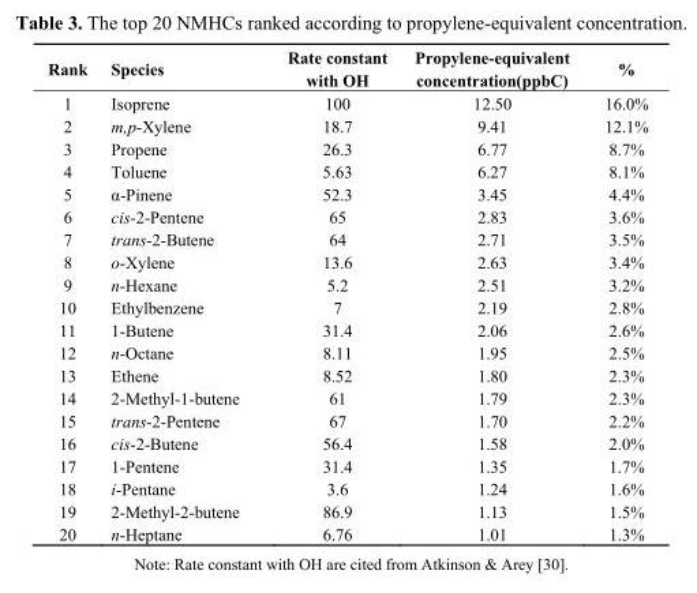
<table><thead><tr><td>Rank</td><td>Species</td><td>Rate constant with OH</td><td>Propylene-equivalent concentration(ppbC)</td><td>%</td></tr></thead><tbody><tr><td>1</td><td>Isoprene</td><td>100</td><td>12.50</td><td>16.0%</td></tr><tr><td>2</td><td>m,p-Xylene</td><td>18.7</td><td>9.41</td><td>12.1%</td></tr><tr><td>3</td><td>Propene</td><td>26.3</td><td>6.77</td><td>8.7%</td></tr><tr><td>4</td><td>Toluene</td><td>5.63</td><td>6.27</td><td>8.1%</td></tr><tr><td>5</td><td>α-Pinene</td><td>52.3</td><td>3.45</td><td>4.4%</td></tr><tr><td>6</td><td>cis-2-Pentene</td><td>65</td><td>2.83</td><td>3.6%</td></tr><tr><td>7</td><td>trans-2-Butene</td><td>64</td><td>2.71</td><td>3.5%</td></tr><tr><td>8</td><td>o-Xylene</td><td>13.6</td><td>2.63</td><td>3.4%</td></tr><tr><td>9</td><td>n-Hexane</td><td>5.2</td><td>2.51</td><td>3.2%</td></tr><tr><td>10</td><td>Ethylbenzene</td><td>7</td><td>2.19</td><td>2.8%</td></tr><tr><td>11</td><td>1-Butene</td><td>31.4</td><td>2.06</td><td>2.6%</td></tr><tr><td>12</td><td>n-Octane</td><td>8.11</td><td>1.95</td><td>2.5%</td></tr><tr><td>13</td><td>Ethene</td><td>8.52</td><td>1.80</td><td>2.3%</td></tr><tr><td>14</td><td>2-Methyl-1-butene</td><td>61</td><td>1.79</td><td>2.3%</td></tr><tr><td>15</td><td>trans-2-Pentene</td><td>67</td><td>1.70</td><td>2.2%</td></tr><tr><td>16</td><td>cis-2-Butene</td><td>56.4</td><td>1.58</td><td>2.0%</td></tr><tr><td>17</td><td>1-Pentene</td><td>31.4</td><td>1.35</td><td>1.7%</td></tr><tr><td>18</td><td>i-Pentane</td><td>3.6</td><td>1.24</td><td>1.6%</td></tr><tr><td>19</td><td>2-Methyl-2-butene</td><td>86.9</td><td>1.13</td><td>1.5%</td></tr><tr><td>20</td><td>n-Heptane</td><td>6.76</td><td>1.01</td><td>1.3%</td></tr></tbody></table>